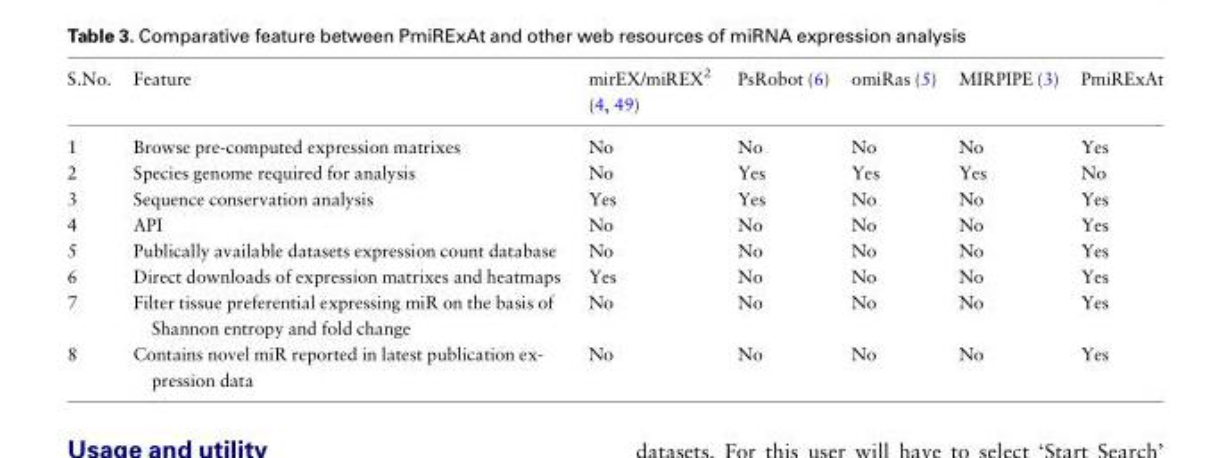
<table><thead><tr><td>S.No.</td><td>Feature</td><td>mirEX/miREX<sup>2</sup> (4, 49)</td><td>PsRobot (6)</td><td>omiRas (5)</td><td>MIRPIPE (3)</td><td>PmiRExAt</td></tr></thead><tbody><tr><td>1</td><td>Browse pre-computed expression matrixes</td><td>No</td><td>No</td><td>No</td><td>No</td><td>Yes</td></tr><tr><td>2</td><td>Species genome required for analysis</td><td>No</td><td>Yes</td><td>Yes</td><td>Yes</td><td>No</td></tr><tr><td>3</td><td>Sequence conservation analysis</td><td>Yes</td><td>Yes</td><td>No</td><td>No</td><td>Yes</td></tr><tr><td>4</td><td>API</td><td>No</td><td>No</td><td>No</td><td>No</td><td>Yes</td></tr><tr><td>5</td><td>Publically available datasets expression count database</td><td>No</td><td>No</td><td>No</td><td>No</td><td>Yes</td></tr><tr><td>6</td><td>Direct downloads of expression matrixes and heatmaps</td><td>Yes</td><td>No</td><td>No</td><td>No</td><td>Yes</td></tr><tr><td>7</td><td>Filter tissue preferential expressing miR on the basis of Shannon entropy and fold change</td><td>No</td><td>No</td><td>No</td><td>No</td><td>Yes</td></tr><tr><td>8</td><td>Contains novel miR reported in latest publication ex- pression data</td><td>No</td><td>No</td><td>No</td><td>No</td><td>Yes</td></tr></tbody></table>